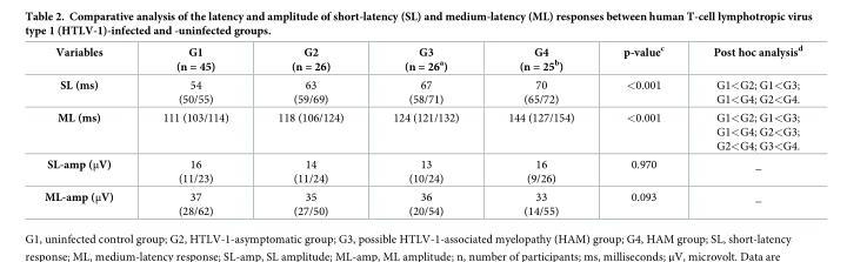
<table><thead><tr><td>Variables</td><td>G1 (n = 45)</td><td>G2 (n = 26)</td><td>G3 (n = 26<sup>a</sup>)</td><td>G4 (n = 25<sup>b</sup>)</td><td>p-value<sup>c</sup></td><td>Post hoc analysis<sup>d</sup></td></tr></thead><tbody><tr><td>SL (ms)</td><td>54 (50/55)</td><td>63 (59/69)</td><td>67 (58/71)</td><td>70 (65/72)</td><td>&lt;0.001</td><td>G1&lt;G2; G1&lt;G3; G1&lt;G4; G2&lt;G4.</td></tr><tr><td>ML (ms)</td><td>111 (103/114)</td><td>118 (106/124)</td><td>124 (121/132)</td><td>144 (127/154)</td><td>&lt;0.001</td><td>G1&lt;G2; G1&lt;G3; G1&lt;G4; G2&lt;G3; G2&lt;G4; G3&lt;G4.</td></tr><tr><td>SL-amp (μV)</td><td>16 (11/23)</td><td>14 (11/24)</td><td>13 (10/24)</td><td>16 (9/26)</td><td>0.970</td><td>_</td></tr><tr><td>ML-amp (μV)</td><td>37 (28/62)</td><td>35 (27/50)</td><td>36 (20/54)</td><td>33 (14/55)</td><td>0.093</td><td>_</td></tr></tbody></table>